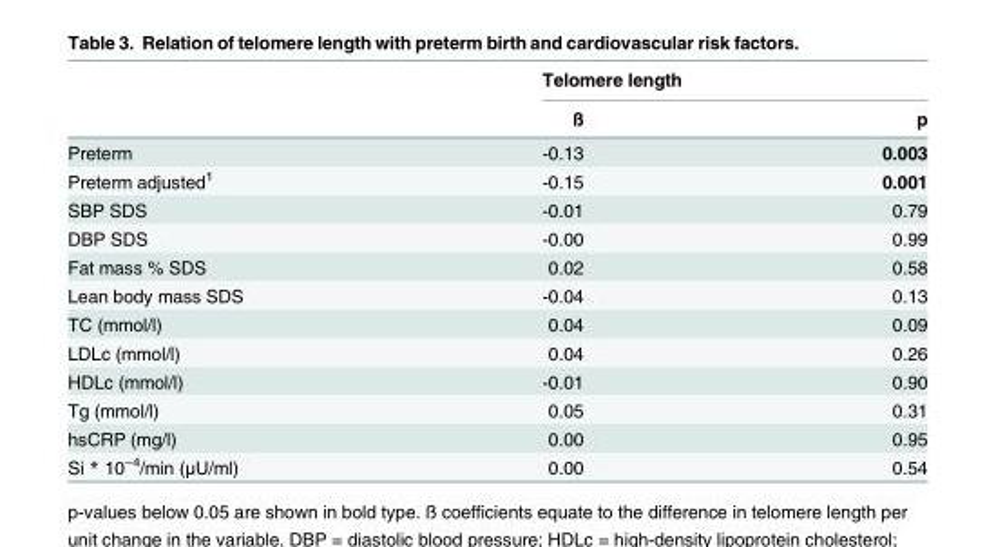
<table><thead><tr><td rowspan="2"></td><td colspan="2">Telomere length</td></tr><tr><td>ß</td><td>p</td></tr></thead><tbody><tr><td>Preterm</td><td>-0.13</td><td>0.003</td></tr><tr><td>Preterm adjusted<sup>1</sup></td><td>-0.15</td><td>0.001</td></tr><tr><td>SBP SDS</td><td>-0.01</td><td>0.79</td></tr><tr><td>DBP SDS</td><td>-0.00</td><td>0.99</td></tr><tr><td>Fat mass % SDS</td><td>0.02</td><td>0.58</td></tr><tr><td>Lean body mass SDS</td><td>-0.04</td><td>0.13</td></tr><tr><td>TC (mmol/l)</td><td>0.04</td><td>0.09</td></tr><tr><td>LDLc (mmol/l)</td><td>0.04</td><td>0.26</td></tr><tr><td>HDLc (mmol/l)</td><td>-0.01</td><td>0.90</td></tr><tr><td>Tg (mmol/l)</td><td>0.05</td><td>0.31</td></tr><tr><td>hsCRP (mg/l)</td><td>0.00</td><td>0.95</td></tr><tr><td>Si * 10<sup>−4</sup>/min (μU/ml)</td><td>0.00</td><td>0.54</td></tr></tbody></table>